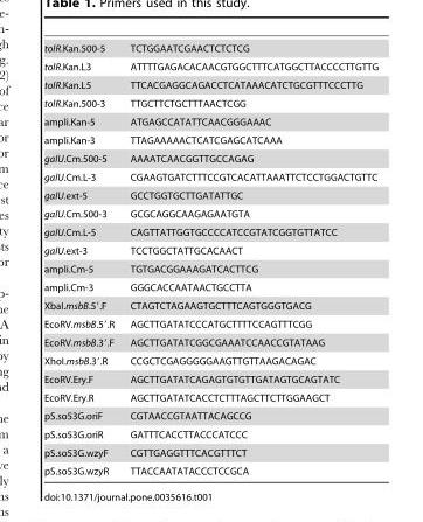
<table><tbody><tr><td>tolR.Kan.500-5</td><td>TCTGGAATCGAACTCTCTCG</td></tr><tr><td>tolR.Kan.L3</td><td>ATTTTGAGACACAACGTGGCTTTCATGGCTTACCCCTTGTTG</td></tr><tr><td>tolR.Kan.L5</td><td>TTCACGAGGCAGACCTCATAAACATCTGCGTTTCCCTTG</td></tr><tr><td>tolR.Kan.500-3</td><td>TTGCTTCTGCTTTAACTCGG</td></tr><tr><td>ampli.Kan-5</td><td>ATGAGCCATATTCAACGGGAAAC</td></tr><tr><td>ampli.Kan-3</td><td>TTAGAAAAACTCATCGAGCATCAAA</td></tr><tr><td>galU.Cm.500-5</td><td>AAAATCAACGGTTGCCAGAG</td></tr><tr><td>galU.Cm.L-3</td><td>CGAAGTGATCTTTCCGTCACATTAAATTCTCCTGGACTGTTC</td></tr><tr><td>galU.ext-5</td><td>GCCTGGTGCTTGATATTGC</td></tr><tr><td>galU.Cm.500-3</td><td>GCGCAGGCAAGAGAATGTA</td></tr><tr><td>galU.Cm.L-5</td><td>CAGTTATTGGTGCCCCATCCGTATCGGTGTTATCC</td></tr><tr><td>galU.ext-3</td><td>TCCTGGCTATTGCACAACT</td></tr><tr><td>ampli.Cm-5</td><td>TGTGACGGAAAGATCACTTCG</td></tr><tr><td>ampli.Cm-3</td><td>GGGCACCAATAACTGCCTTA</td></tr><tr><td>XbaI.msbB.5′.F</td><td>CTAGTCTAGAAGTGCTTTCAGTGGGTGACG</td></tr><tr><td>EcoRV.msbB.5′.R</td><td>AGCTTGATATCCCATGCTTTTCCAGTTTCGG</td></tr><tr><td>EcoRV.msbB.3′.F</td><td>AGCTTGATATCGGCGAAATCCAACCGTATAAG</td></tr><tr><td>XhoI.msbB.3′.R</td><td>CCGCTCGAGGGGGAAGTTGTTAAGACAGAC</td></tr><tr><td>EcoRV.Ery.F</td><td>AGCTTGATATCAGAGTGTGTTGATAGTGCAGTATC</td></tr><tr><td>EcoRV.Ery.R</td><td>AGCTTGATATCACCTCTTTAGCTTCTTGGAAGCT</td></tr><tr><td>pS.so53G.oriF</td><td>CGTAACCGTAATTACAGCCG</td></tr><tr><td>pS.so53G.oriR</td><td>GATTTCACCTTACCCATCCC</td></tr><tr><td>pS.so53G.wzyF</td><td>CGTTGAGGTTTCACGTTTCT</td></tr><tr><td>pS.so53G.wzyR</td><td>TTACCAATATACCCTCCGCA</td></tr></tbody></table>